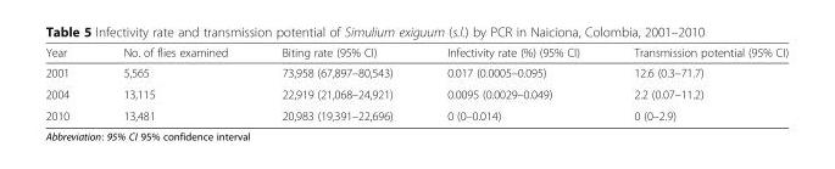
<table><thead><tr><td>Year</td><td>No. of flies examined</td><td>Biting rate (95% CI)</td><td>Infectivity rate (%) (95% CI)</td><td>Transmission potential (95% CI)</td></tr></thead><tbody><tr><td>2001</td><td>5,565</td><td>73,958 (67,897–80,543)</td><td>0.017 (0.0005–0.095)</td><td>12.6 (0.3–71.7)</td></tr><tr><td>2004</td><td>13,115</td><td>22,919 (21,068–24,921)</td><td>0.0095 (0.0029–0.049)</td><td>2.2 (0.07–11.2)</td></tr><tr><td>2010</td><td>13,481</td><td>20,983 (19,391–22,696)</td><td>0 (0–0.014)</td><td>0 (0–2.9)</td></tr></tbody></table>